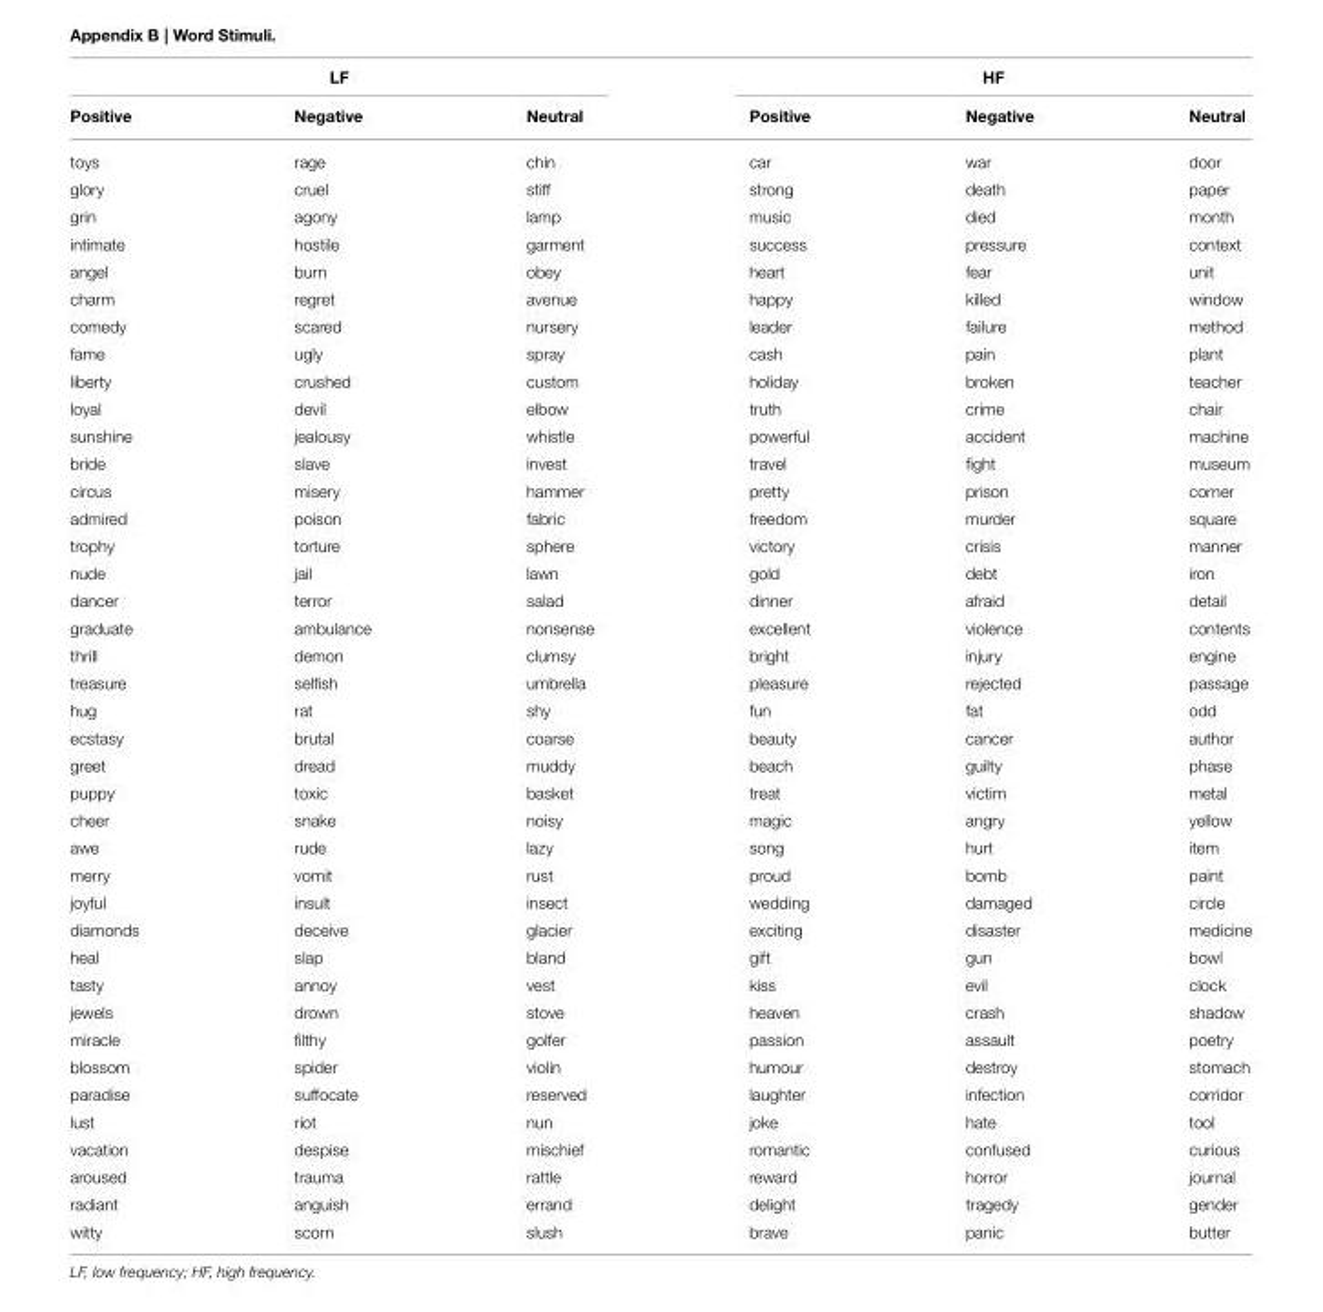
<table><thead><tr><td colspan="3">LF</td><td colspan="3">HF</td></tr><tr><td>Positive</td><td>Negative</td><td>Neutral</td><td>Positive</td><td>Negative</td><td>Neutral</td></tr></thead><tbody><tr><td>toys</td><td>rage</td><td>chin</td><td>car</td><td>war</td><td>door</td></tr><tr><td>glory</td><td>cruel</td><td>stiff</td><td>strong</td><td>death</td><td>paper</td></tr><tr><td>grin</td><td>agony</td><td>lamp</td><td>music</td><td>died</td><td>month</td></tr><tr><td>intimate</td><td>hostile</td><td>garment</td><td>success</td><td>pressure</td><td>context</td></tr><tr><td>angel</td><td>burn</td><td>obey</td><td>heart</td><td>fear</td><td>unit</td></tr><tr><td>charm</td><td>regret</td><td>avenue</td><td>happy</td><td>killed</td><td>window</td></tr><tr><td>comedy</td><td>scared</td><td>nursery</td><td>leader</td><td>failure</td><td>method</td></tr><tr><td>fame</td><td>ugly</td><td>spray</td><td>cash</td><td>pain</td><td>plant</td></tr><tr><td>liberty</td><td>crushed</td><td>custom</td><td>holiday</td><td>broken</td><td>teacher</td></tr><tr><td>loyal</td><td>devil</td><td>elbow</td><td>truth</td><td>crime</td><td>chair</td></tr><tr><td>sunshine</td><td>jealousy</td><td>whistle</td><td>powerful</td><td>accident</td><td>machine</td></tr><tr><td>bride</td><td>slave</td><td>invest</td><td>travel</td><td>fight</td><td>museum</td></tr><tr><td>circus</td><td>misery</td><td>hammer</td><td>pretty</td><td>prison</td><td>corner</td></tr><tr><td>admired</td><td>poison</td><td>fabric</td><td>freedom</td><td>murder</td><td>square</td></tr><tr><td>trophy</td><td>torture</td><td>sphere</td><td>victory</td><td>crisis</td><td>manner</td></tr><tr><td>nude</td><td>jail</td><td>lawn</td><td>gold</td><td>debt</td><td>iron</td></tr><tr><td>dancer</td><td>terror</td><td>salad</td><td>dinner</td><td>afraid</td><td>detail</td></tr><tr><td>graduate</td><td>ambulance</td><td>nonsense</td><td>excellent</td><td>violence</td><td>contents</td></tr><tr><td>thrill</td><td>demon</td><td>clumsy</td><td>bright</td><td>injury</td><td>engine</td></tr><tr><td>treasure</td><td>selfish</td><td>umbrella</td><td>pleasure</td><td>rejected</td><td>passage</td></tr><tr><td>hug</td><td>rat</td><td>shy</td><td>fun</td><td>fat</td><td>odd</td></tr><tr><td>ecstasy</td><td>brutal</td><td>coarse</td><td>beauty</td><td>cancer</td><td>author</td></tr><tr><td>greet</td><td>dread</td><td>muddy</td><td>beach</td><td>guilty</td><td>phase</td></tr><tr><td>puppy</td><td>toxic</td><td>basket</td><td>treat</td><td>victim</td><td>metal</td></tr><tr><td>cheer</td><td>snake</td><td>noisy</td><td>magic</td><td>angry</td><td>yellow</td></tr><tr><td>awe</td><td>rude</td><td>lazy</td><td>song</td><td>hurt</td><td>item</td></tr><tr><td>merry</td><td>vomit</td><td>rust</td><td>proud</td><td>bomb</td><td>paint</td></tr><tr><td>joyful</td><td>insult</td><td>insect</td><td>wedding</td><td>damaged</td><td>circle</td></tr><tr><td>diamonds</td><td>deceive</td><td>glacier</td><td>exciting</td><td>disaster</td><td>medicine</td></tr><tr><td>heal</td><td>slap</td><td>bland</td><td>gift</td><td>gun</td><td>bowl</td></tr><tr><td>tasty</td><td>annoy</td><td>vest</td><td>kiss</td><td>evil</td><td>clock</td></tr><tr><td>jewels</td><td>drown</td><td>stove</td><td>heaven</td><td>crash</td><td>shadow</td></tr><tr><td>miracle</td><td>filthy</td><td>golfer</td><td>passion</td><td>assault</td><td>poetry</td></tr><tr><td>blossom</td><td>spider</td><td>violin</td><td>humour</td><td>destroy</td><td>stomach</td></tr><tr><td>paradise</td><td>suffocate</td><td>reserved</td><td>laughter</td><td>infection</td><td>corridor</td></tr><tr><td>lust</td><td>riot</td><td>nun</td><td>joke</td><td>hate</td><td>tool</td></tr><tr><td>vacation</td><td>despise</td><td>mischief</td><td>romantic</td><td>confused</td><td>curious</td></tr><tr><td>aroused</td><td>trauma</td><td>rattle</td><td>reward</td><td>horror</td><td>journal</td></tr><tr><td>radiant</td><td>anguish</td><td>errand</td><td>delight</td><td>tragedy</td><td>gender</td></tr><tr><td>witty</td><td>scorn</td><td>slush</td><td>brave</td><td>panic</td><td>butter</td></tr></tbody></table>